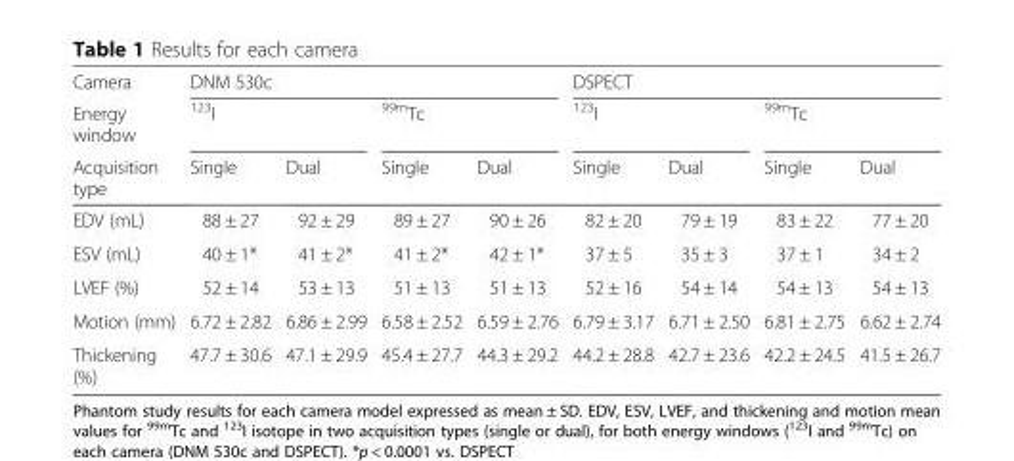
<table><thead><tr><td rowspan="3">Camera Energy window Acquisition type</td><td colspan="4">DNM 530c</td><td colspan="4">DSPECT</td></tr><tr><td colspan="2"><sup>123</sup>I</td><td colspan="2"><sup>99m</sup>Tc</td><td colspan="2"><sup>123</sup>I</td><td colspan="2"><sup>99m</sup>Tc</td></tr><tr><td>Single</td><td>Dual</td><td>Single</td><td>Dual</td><td>Single</td><td>Dual</td><td>Single</td><td>Dual</td></tr></thead><tbody><tr><td>EDV (mL)</td><td>88 ± 27</td><td>92 ± 29</td><td>89 ± 27</td><td>90 ± 26</td><td>82 ± 20</td><td>79 ± 19</td><td>83 ± 22</td><td>77 ± 20</td></tr><tr><td>ESV (mL)</td><td>40 ± 1*</td><td>41 ± 2*</td><td>41 ± 2*</td><td>42 ± 1*</td><td>37 ± 5</td><td>35 ± 3</td><td>37 ± 1</td><td>34 ± 2</td></tr><tr><td>LVEF (%)</td><td>52 ± 14</td><td>53 ± 13</td><td>51 ± 13</td><td>51 ± 13</td><td>52 ± 16</td><td>54 ± 14</td><td>54 ± 13</td><td>54 ± 13</td></tr><tr><td>Motion (mm)</td><td>6.72 ± 2.82</td><td>6.86 ± 2.99</td><td>6.58 ± 2.52</td><td>6.59 ± 2.76</td><td>6.79 ± 3.17</td><td>6.71 ± 2.50</td><td>6.81 ± 2.75</td><td>6.62 ± 2.74</td></tr><tr><td>Thickening (%)</td><td>47.7 ± 30.6</td><td>47.1 ± 29.9</td><td>45.4 ± 27.7</td><td>44.3 ± 29.2</td><td>44.2 ± 28.8</td><td>42.7 ± 23.6</td><td>42.2 ± 24.5</td><td>41.5 ± 26.7</td></tr></tbody></table>